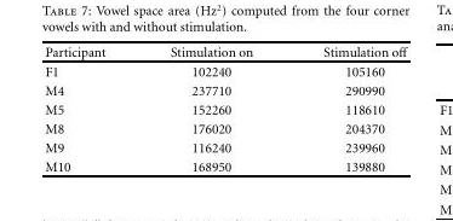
<table><thead><tr><td>Participant</td><td>Stimulation on</td><td>Stimulation</td></tr></thead><tbody><tr><td>F1</td><td>102240</td><td>105160</td></tr><tr><td>M4</td><td>237710</td><td>290990</td></tr><tr><td>M5</td><td>152260</td><td>118610</td></tr><tr><td>M8</td><td>176020</td><td>204370</td></tr><tr><td>M9</td><td>116240</td><td>239960</td></tr><tr><td>M10</td><td>168950</td><td>139880</td></tr></tbody></table>